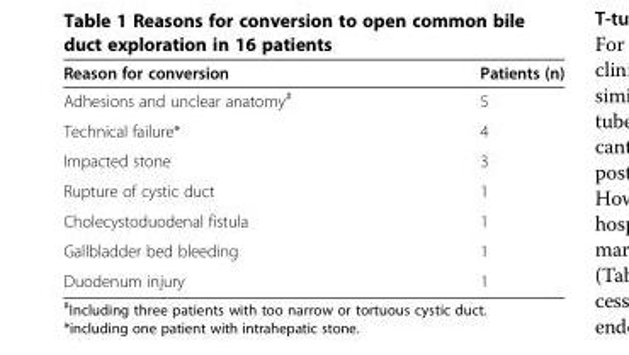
<table><thead><tr><td>Reason for conversion</td><td>Patients (n)</td></tr></thead><tbody><tr><td>Adhesions and unclear anatomy<sup>#</sup></td><td>5</td></tr><tr><td>Technical failure*</td><td>4</td></tr><tr><td>Impacted stone</td><td>3</td></tr><tr><td>Rupture of cystic duct</td><td>1</td></tr><tr><td>Cholecystoduodenal fistula</td><td>1</td></tr><tr><td>Gallbladder bed bleeding</td><td>1</td></tr><tr><td>Duodenum injury</td><td>1</td></tr></tbody></table>